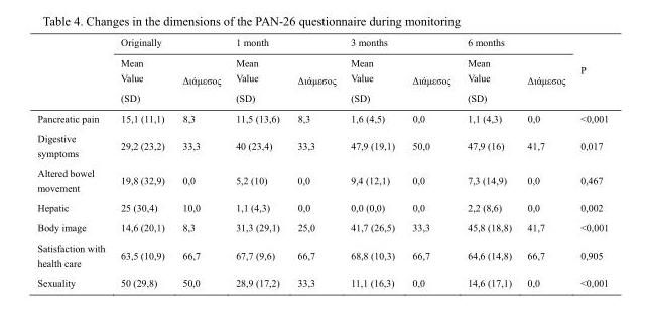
<table><thead><tr><td rowspan="2"></td><td rowspan="2">Originally Mean Value (SD)</td><td rowspan="2">Διάμεσος</td><td rowspan="2">1 month Mean Value (SD)</td><td rowspan="2">Διάμεσος</td><td rowspan="2">3 months Mean Value (SD)</td><td rowspan="2">Διάμεσος</td><td rowspan="2">6 months Mean Value (SD)</td><td rowspan="2">Διάμεσος</td><td rowspan="2">P</td></tr><tr></tr></thead><tbody><tr><td>Pancreatic pain</td><td>15,1 (11,1)</td><td>8,3</td><td>11,5 (13,6)</td><td>8,3</td><td>1,6 (4,5)</td><td>0,0</td><td>1,1 (4,3)</td><td>0,0</td><td>&lt;0,001</td></tr><tr><td>Digestive symptoms</td><td>29,2 (23,2)</td><td>33,3</td><td>40 (23,4)</td><td>33,3</td><td>47,9 (19,1)</td><td>50,0</td><td>47,9 (16)</td><td>41,7</td><td>0,017</td></tr><tr><td>Altered bowel movement</td><td>19,8 (32,9)</td><td>0,0</td><td>5,2 (10)</td><td>0,0</td><td>9,4 (12,1)</td><td>0,0</td><td>7,3 (14,9)</td><td>0,0</td><td>0,467</td></tr><tr><td>Hepatic</td><td>25 (30,4)</td><td>10,0</td><td>1,1 (4,3)</td><td>0,0</td><td>0,0 (0,0)</td><td>0,0</td><td>2,2 (8,6)</td><td>0,0</td><td>0,002</td></tr><tr><td>Body image</td><td>14,6 (20,1)</td><td>8,3</td><td>31,3 (29,1)</td><td>25,0</td><td>41,7 (26,5)</td><td>33,3</td><td>45,8 (18,8)</td><td>41,7</td><td>&lt;0,001</td></tr><tr><td>Satisfaction with health care</td><td>63,5 (10,9)</td><td>66,7</td><td>67,7 (9,6)</td><td>66,7</td><td>68,8 (10,3)</td><td>66,7</td><td>64,6 (14,8)</td><td>66,7</td><td>0,905</td></tr><tr><td>Sexuality</td><td>50 (29,8)</td><td>50,0</td><td>28,9 (17,2)</td><td>33,3</td><td>11,1 (16,3)</td><td>0,0</td><td>14,6 (17,1)</td><td>0,0</td><td>&lt;0,001</td></tr></tbody></table>